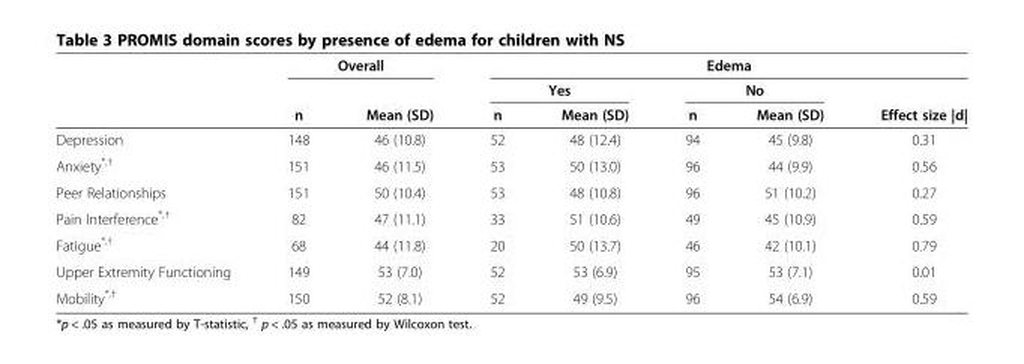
<table><thead><tr><td rowspan="3"></td><td colspan="2">Overall</td><td colspan="5">Edema</td></tr><tr><td rowspan="2">n</td><td rowspan="2">Mean (SD)</td><td colspan="2">Yes</td><td colspan="2">No</td><td rowspan="2">Effect size |d|</td></tr><tr><td>n</td><td>Mean (SD)</td><td>n</td><td>Mean (SD)</td></tr></thead><tbody><tr><td>Depression</td><td>148</td><td>46 (10.8)</td><td>52</td><td>48 (12.4)</td><td>94</td><td>45 (9.8)</td><td>0.31</td></tr><tr><td>Anxiety<sup>*,†</sup></td><td>151</td><td>46 (11.5)</td><td>53</td><td>50 (13.0)</td><td>96</td><td>44 (9.9)</td><td>0.56</td></tr><tr><td>Peer Relationships</td><td>151</td><td>50 (10.4)</td><td>53</td><td>48 (10.8)</td><td>96</td><td>51 (10.2)</td><td>0.27</td></tr><tr><td>Pain Interference<sup>*,†</sup></td><td>82</td><td>47 (11.1)</td><td>33</td><td>51 (10.6)</td><td>49</td><td>45 (10.9)</td><td>0.59</td></tr><tr><td>Fatigue<sup>*,†</sup></td><td>68</td><td>44 (11.8)</td><td>20</td><td>50 (13.7)</td><td>46</td><td>42 (10.1)</td><td>0.79</td></tr><tr><td>Upper Extremity Functioning</td><td>149</td><td>53 (7.0)</td><td>52</td><td>53 (6.9)</td><td>95</td><td>53 (7.1)</td><td>0.01</td></tr><tr><td>Mobility<sup>*,†</sup></td><td>150</td><td>52 (8.1)</td><td>52</td><td>49 (9.5)</td><td>96</td><td>54 (6.9)</td><td>0.59</td></tr></tbody></table>